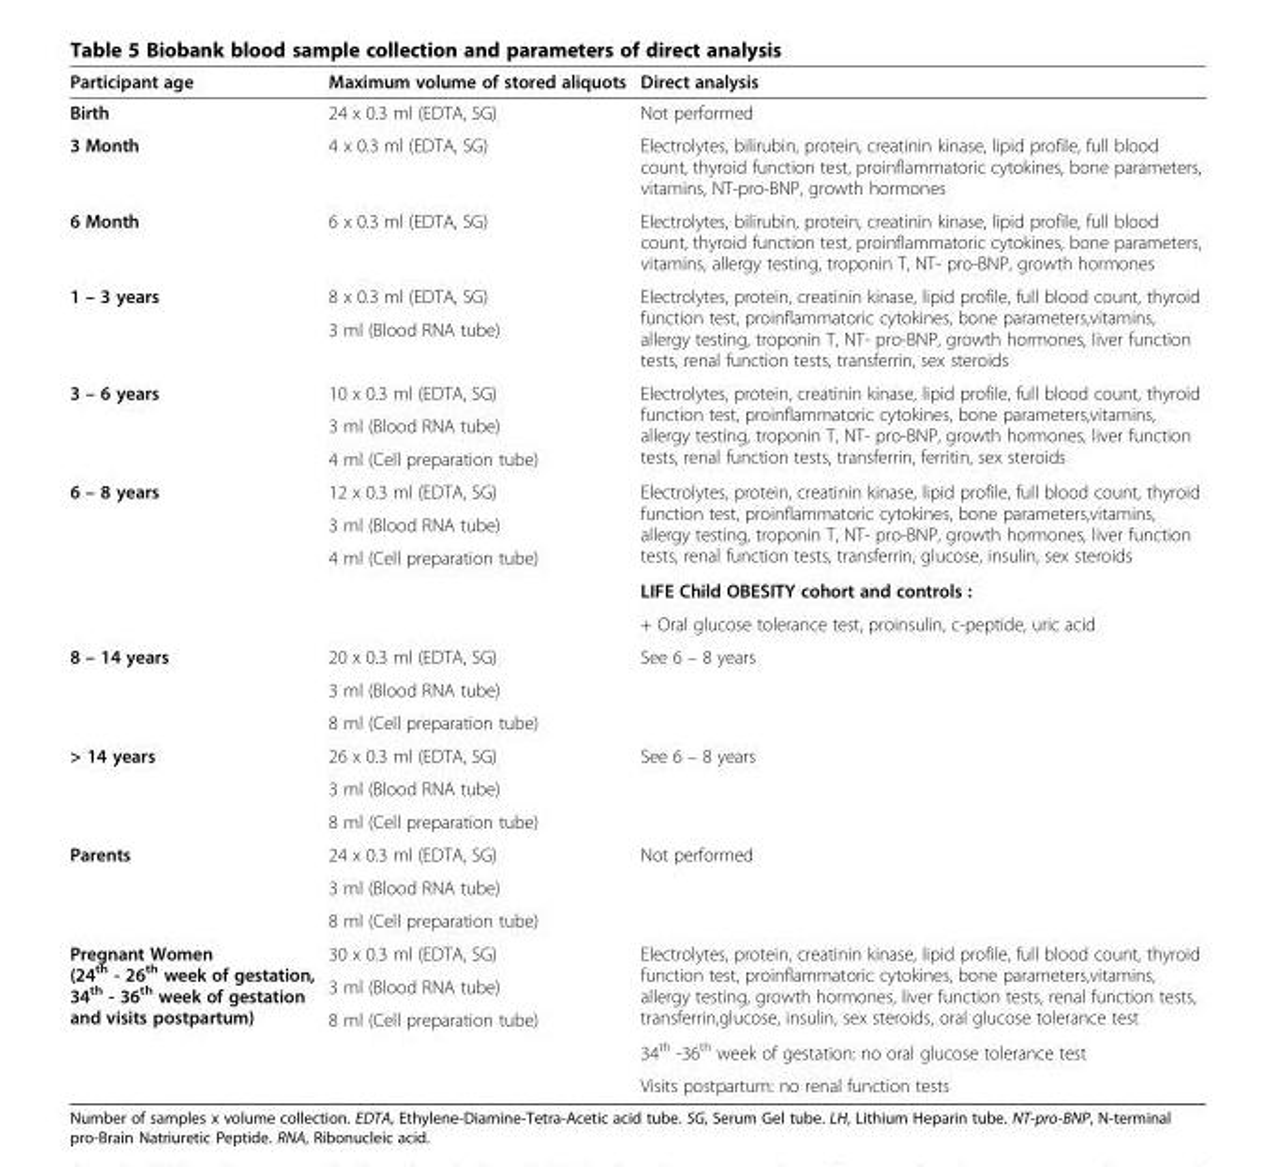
<table><thead><tr><td>Participant age</td><td>Maximum volume of stored aliquots</td><td>Direct analysis</td></tr></thead><tbody><tr><td>Birth</td><td>24 x 0.3 ml (EDTA, SG)</td><td>Not performed</td></tr><tr><td>3 Month</td><td>4 x 0.3 ml (EDTA, SG)</td><td>Electrolytes, bilirubin, protein, creatinin kinase, lipid profile, full blood count, thyroid function test, proinflammatoric cytokines, bone parameters, vitamins, NT-pro-BNP, growth hormones</td></tr><tr><td>6 Month</td><td>6 x 0.3 ml (EDTA, SG)</td><td>Electrolytes, bilirubin, protein, creatinin kinase, lipid profile, full blood count, thyroid function test, proinflammatoric cytokines, bone parameters, vitamins, allergy testing, troponin T, NT- pro-BNP, growth hormones</td></tr><tr><td rowspan="2">1 – 3 years</td><td>8 x 0.3 ml (EDTA, SG)</td><td rowspan="2">Electrolytes, protein, creatinin kinase, lipid profile, full blood count, thyroid function test, proinflammatoric cytokines, bone parameters,vitamins, allergy testing, troponin T, NT- pro-BNP, growth hormones, liver function tests, renal function tests, transferrin, sex steroids</td></tr><tr><td>3 ml (Blood RNA tube)</td></tr><tr><td rowspan="3">3 – 6 years</td><td>10 x 0.3 ml (EDTA, SG)</td><td rowspan="3">Electrolytes, protein, creatinin kinase, lipid profile, full blood count, thyroid function test, proinflammatoric cytokines, bone parameters,vitamins, allergy testing, troponin T, NT- pro-BNP, growth hormones, liver function tests, renal function tests, transferrin, ferritin, sex steroids</td></tr><tr><td>3 ml (Blood RNA tube)</td></tr><tr><td>4 ml (Cell preparation tube)</td></tr><tr><td rowspan="5">6 – 8 years</td><td>12 x 0.3 ml (EDTA, SG)</td><td rowspan="3">Electrolytes, protein, creatinin kinase, lipid profile, full blood count, thyroid function test, proinflammatoric cytokines, bone parameters,vitamins, allergy testing, troponin T, NT- pro-BNP, growth hormones, liver function tests, renal function tests, transferrin, glucose, insulin, sex steroids</td></tr><tr><td>3 ml (Blood RNA tube)</td></tr><tr><td>4 ml (Cell preparation tube)</td></tr><tr><td></td><td>LIFE Child OBESITY cohort and controls :</td></tr><tr><td></td><td>+ Oral glucose tolerance test, proinsulin, c-peptide, uric acid</td></tr><tr><td rowspan="3">8 – 14 years</td><td>20 x 0.3 ml (EDTA, SG)</td><td rowspan="3">See 6 – 8 years</td></tr><tr><td>3 ml (Blood RNA tube)</td></tr><tr><td>8 ml (Cell preparation tube)</td></tr><tr><td rowspan="3">&gt; 14 years</td><td>26 x 0.3 ml (EDTA, SG)</td><td rowspan="3">See 6 – 8 years</td></tr><tr><td>3 ml (Blood RNA tube)</td></tr><tr><td>8 ml (Cell preparation tube)</td></tr><tr><td rowspan="3">Parents</td><td>24 x 0.3 ml (EDTA, SG)</td><td rowspan="3">Not performed</td></tr><tr><td>3 ml (Blood RNA tube)</td></tr><tr><td>8 ml (Cell preparation tube)</td></tr><tr><td rowspan="5">Pregnant Women (24<sup>th</sup> - 26<sup>th</sup> week of gestation, 34<sup>th</sup> - 36<sup>th</sup> week of gestation and visits postpartum)</td><td>30 x 0.3 ml (EDTA, SG)</td><td rowspan="3">Electrolytes, protein, creatinin kinase, lipid profile, full blood count, thyroid function test, proinflammatoric cytokines, bone parameters,vitamins, allergy testing, growth hormones, liver function tests, renal function tests, transferrin,glucose, insulin, sex steroids, oral glucose tolerance test</td></tr><tr><td>3 ml (Blood RNA tube)</td></tr><tr><td>8 ml (Cell preparation tube)</td></tr><tr><td></td><td>34<sup>th</sup> -36<sup>th</sup> week of gestation: no oral glucose tolerance test</td></tr><tr><td></td><td>Visits postpartum: no renal function tests</td></tr></tbody></table>